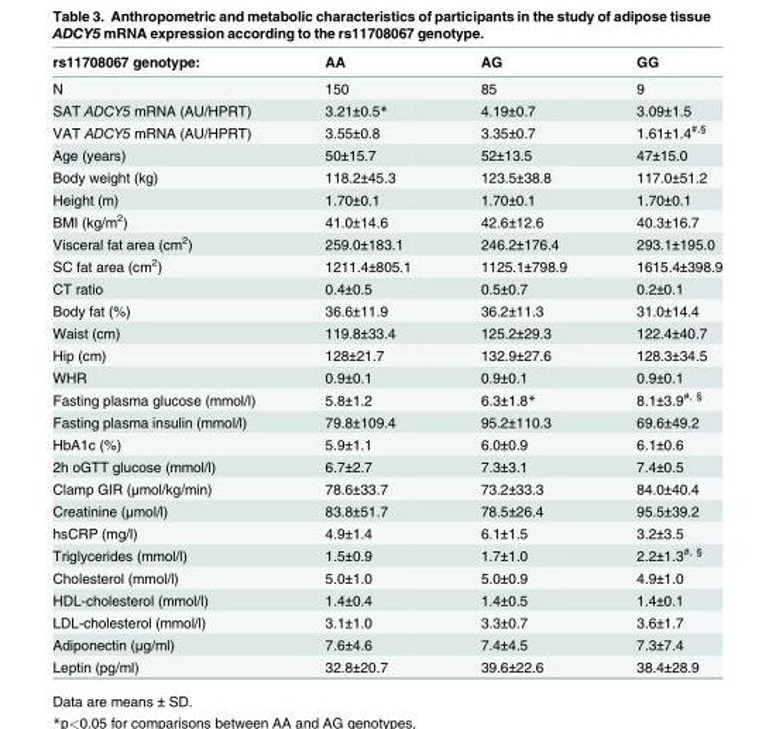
<table><thead><tr><td>rs11708067 genotype:</td><td>AA</td><td>AG</td><td>GG</td></tr></thead><tbody><tr><td>N</td><td>150</td><td>85</td><td>9</td></tr><tr><td>SAT ADCY5 mRNA (AU/HPRT)</td><td>3.21±0.5*</td><td>4.19±0.7</td><td>3.09±1.5</td></tr><tr><td>VAT ADCY5 mRNA (AU/HPRT)</td><td>3.55±0.8</td><td>3.35±0.7</td><td>1.61±1.4<sup>#,§</sup></td></tr><tr><td>Age (years)</td><td>50±15.7</td><td>52±13.5</td><td>47±15.0</td></tr><tr><td>Body weight (kg)</td><td>118.2±45.3</td><td>123.5±38.8</td><td>117.0±51.2</td></tr><tr><td>Height (m)</td><td>1.70±0.1</td><td>1.70±0.1</td><td>1.70±0.1</td></tr><tr><td>BMI (kg/m<sup>2</sup>)</td><td>41.0±14.6</td><td>42.6±12.6</td><td>40.3±16.7</td></tr><tr><td>Visceral fat area (cm<sup>2</sup>)</td><td>259.0±183.1</td><td>246.2±176.4</td><td>293.1±195.0</td></tr><tr><td>SC fat area (cm<sup>2</sup>)</td><td>1211.4±805.1</td><td>1125.1±798.9</td><td>1615.4±398.9</td></tr><tr><td>CT ratio</td><td>0.4±0.5</td><td>0.5±0.7</td><td>0.2±0.1</td></tr><tr><td>Body fat (%)</td><td>36.6±11.9</td><td>36.2±11.3</td><td>31.0±14.4</td></tr><tr><td>Waist (cm)</td><td>119.8±33.4</td><td>125.2±29.3</td><td>122.4±40.7</td></tr><tr><td>Hip (cm)</td><td>128±21.7</td><td>132.9±27.6</td><td>128.3±34.5</td></tr><tr><td>WHR</td><td>0.9±0.1</td><td>0.9±0.1</td><td>0.9±0.1</td></tr><tr><td>Fasting plasma glucose (mmol/l)</td><td>5.8±1.2</td><td>6.3±1.8*</td><td>8.1±3.9<sup>#, §</sup></td></tr><tr><td>Fasting plasma insulin (mmol/l)</td><td>79.8±109.4</td><td>95.2±110.3</td><td>69.6±49.2</td></tr><tr><td>HbA1c (%)</td><td>5.9±1.1</td><td>6.0±0.9</td><td>6.1±0.6</td></tr><tr><td>2h oGTT glucose (mmol/l)</td><td>6.7±2.7</td><td>7.3±3.1</td><td>7.4±0.5</td></tr><tr><td>Clamp GIR (μmol/kg/min)</td><td>78.6±33.7</td><td>73.2±33.3</td><td>84.0±40.4</td></tr><tr><td>Creatinine (μmol/l)</td><td>83.8±51.7</td><td>78.5±26.4</td><td>95.5±39.2</td></tr><tr><td>hsCRP (mg/l)</td><td>4.9±1.4</td><td>6.1±1.5</td><td>3.2±3.5</td></tr><tr><td>Triglycerides (mmol/l)</td><td>1.5±0.9</td><td>1.7±1.0</td><td>2.2±1.3<sup>#, §</sup></td></tr><tr><td>Cholesterol (mmol/l)</td><td>5.0±1.0</td><td>5.0±0.9</td><td>4.9±1.0</td></tr><tr><td>HDL-cholesterol (mmol/l)</td><td>1.4±0.4</td><td>1.4±0.5</td><td>1.4±0.1</td></tr><tr><td>LDL-cholesterol (mmol/l)</td><td>3.1±1.0</td><td>3.3±0.7</td><td>3.6±1.7</td></tr><tr><td>Adiponectin (μg/ml)</td><td>7.6±4.6</td><td>7.4±4.5</td><td>7.3±7.4</td></tr><tr><td>Leptin (pg/ml)</td><td>32.8±20.7</td><td>39.6±22.6</td><td>38.4±28.9</td></tr></tbody></table>